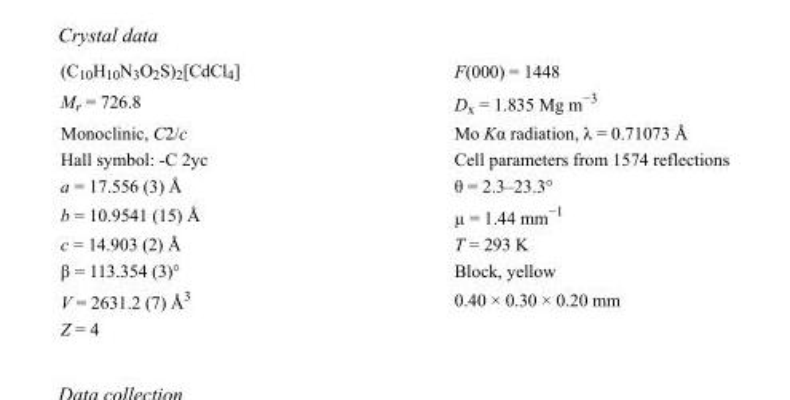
<table><tbody><tr><td>(C<sub>10</sub>H<sub>10</sub>N<sub>3</sub>O<sub>2</sub>S)<sub>2</sub>[CdCl<sub>4</sub>]</td><td>F(000) = 1448</td></tr><tr><td>M<sub>r</sub> = 726.8</td><td>D<sub>x</sub> = 1.835 Mg m<sup>−3</sup></td></tr><tr><td>Monoclinic, C2/c</td><td>Mo Kα radiation, λ = 0.71073 Å</td></tr><tr><td>Hall symbol: -C 2yc</td><td>Cell parameters from 1574 reflections</td></tr><tr><td>a = 17.556 (3) Å</td><td>θ = 2.3–23.3°</td></tr><tr><td>b = 10.9541 (15) Å</td><td>µ = 1.44 mm<sup>−1</sup></td></tr><tr><td>c = 14.903 (2) Å</td><td>T = 293 K</td></tr><tr><td>β = 113.354 (3)°</td><td>Block, yellow</td></tr><tr><td>V = 2631.2 (7) Å<sup>3</sup></td><td>0.40 × 0.30 × 0.20 mm</td></tr><tr><td>Z = 4</td><td></td></tr></tbody></table>